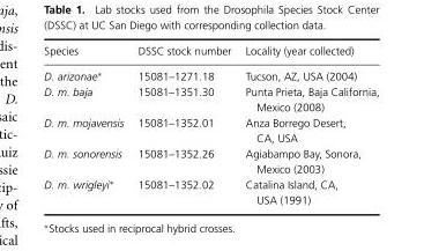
<table><thead><tr><td>Species</td><td>DSSC stock number</td><td>Locality (year collected)</td></tr></thead><tbody><tr><td>D. arizonae∗</td><td>15081–1271.18</td><td>Tucson, AZ, USA (2004)</td></tr><tr><td>D. m. baja</td><td>15081–1351.30</td><td>Punta Prieta, Baja California, Mexico (2008)</td></tr><tr><td>D. m. mojavensis</td><td>15081–1352.01</td><td>Anza Borrego Desert, CA, USA</td></tr><tr><td>D. m. sonorensis</td><td>15081–1352.26</td><td>Agiabampo Bay, Sonora, Mexico (2003)</td></tr><tr><td>D. m. wrigleyi∗</td><td>15081–1352.02</td><td>Catalina Island, CA, USA (1991)</td></tr></tbody></table>